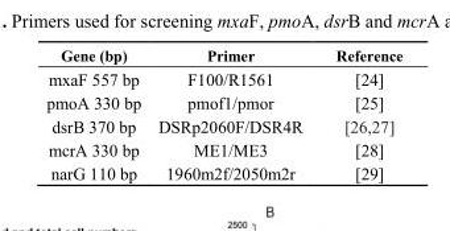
<table><thead><tr><td>Gene (bp)</td><td>Primer</td><td>Reference</td></tr></thead><tbody><tr><td>mxaF 557 bp</td><td>F100/R1561</td><td>[24]</td></tr><tr><td>pmoA 330 bp</td><td>pmof1/pmor</td><td>[25]</td></tr><tr><td>dsrB 370 bp</td><td>DSRp2060F/DSR4R</td><td>[26,27]</td></tr><tr><td>mcrA 330 bp</td><td>ME1/ME3</td><td>[28]</td></tr><tr><td>narG 110 bp</td><td>1960m2f/2050m2r</td><td>[29]</td></tr></tbody></table>